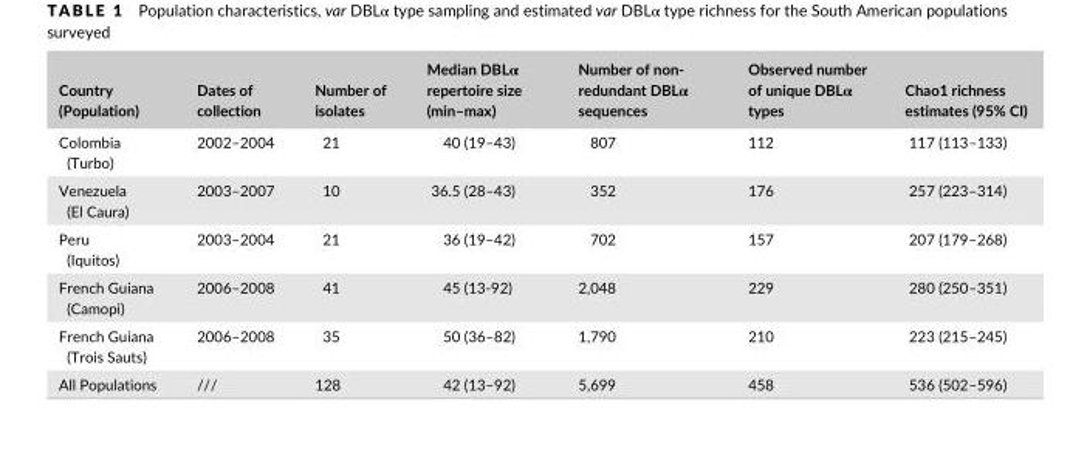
<table><thead><tr><td>Country (Population)</td><td>Dates of collection</td><td>Number of isolates</td><td>Median DBLα repertoire size (min–max)</td><td>Number of non- redundant DBLα sequences</td><td>Observed number of unique DBLα types</td><td>Chao1 richness estimates (95% CI)</td></tr></thead><tbody><tr><td>Colombia (Turbo)</td><td>2002–2004</td><td>21</td><td>40 (19–43)</td><td>807</td><td>112</td><td>117 (113–133)</td></tr><tr><td>Venezuela (El Caura)</td><td>2003–2007</td><td>10</td><td>36.5 (28–43)</td><td>352</td><td>176</td><td>257 (223–314)</td></tr><tr><td>Peru (Iquitos)</td><td>2003–2004</td><td>21</td><td>36 (19–42)</td><td>702</td><td>157</td><td>207 (179–268)</td></tr><tr><td>French Guiana (Camopi)</td><td>2006–2008</td><td>41</td><td>45 (13- 92)</td><td>2,048</td><td>229</td><td>280 (250–351)</td></tr><tr><td>French Guiana (Trois Sauts)</td><td>2006–2008</td><td>35</td><td>50 (36–82)</td><td>1,790</td><td>210</td><td>223 (215–245)</td></tr><tr><td>All Populations</td><td>///</td><td>128</td><td>42 (13–92)</td><td>5,699</td><td>458</td><td>536 (502–596)</td></tr></tbody></table>